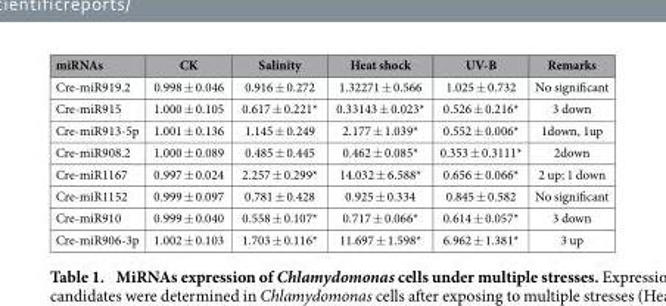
<table><thead><tr><td>miRNAs</td><td>CK</td><td>Salinity</td><td>Heat shock</td><td>UV-B</td><td>Remarks</td></tr></thead><tbody><tr><td>Cre-miR919.2</td><td>0.998 ± 0.046</td><td>0.916 ± 0.272</td><td>1.32271 ± 0.566</td><td>1.025 ± 0.732</td><td>No significant</td></tr><tr><td>Cre-miR915</td><td>1.000 ± 0.105</td><td>0.617 ± 0.221*</td><td>0.33143 ± 0.023*</td><td>0.526 ± 0.216*</td><td>3 down</td></tr><tr><td>Cre-miR913-5p</td><td>1.001 ± 0.136</td><td>1.145 ± 0.249</td><td>2.177 ± 1.039*</td><td>0.552 ± 0.006*</td><td>1down, 1up</td></tr><tr><td>Cre-miR908.2</td><td>1.000 ± 0.089</td><td>0.485 ± 0.445</td><td>0.462 ± 0.085*</td><td>0.353 ± 0.3111*</td><td>2down</td></tr><tr><td>Cre-miR1167</td><td>0.997 ± 0.024</td><td>2.257 ± 0.299*</td><td>14.032 ± 6.588*</td><td>0.656 ± 0.066*</td><td>2 up; 1 down</td></tr><tr><td>Cre-miR1152</td><td>0.999 ± 0.097</td><td>0.781 ± 0.428</td><td>0.925 ± 0.334</td><td>0.845 ± 0.582</td><td>No significant</td></tr><tr><td>Cre-miR910</td><td>0.999 ± 0.040</td><td>0.558 ± 0.107*</td><td>0.717 ± 0.066*</td><td>0.614 ± 0.057*</td><td>3 down</td></tr><tr><td>Cre-miR906-3p</td><td>1.002 ± 0.103</td><td>1.703 ± 0.116*</td><td>11.697 ± 1.598*</td><td>6.962 ± 1.381*</td><td>3 up</td></tr></tbody></table>